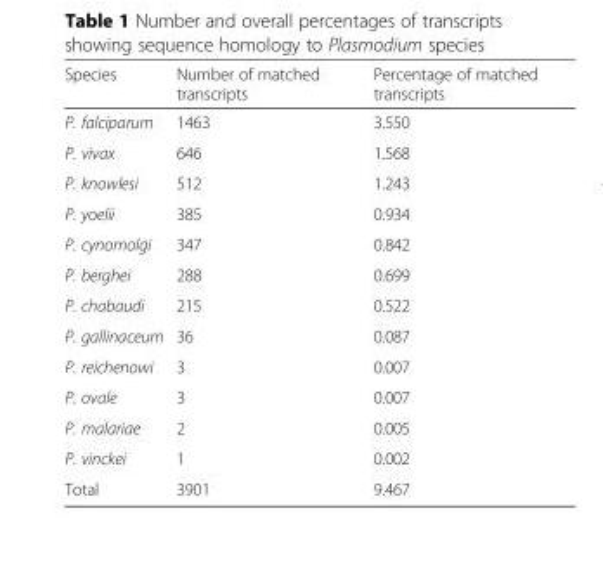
<table><thead><tr><td>Species</td><td>Number of matched transcripts</td><td>Percentage of matched transcripts</td></tr></thead><tbody><tr><td>P. falciparum</td><td>1463</td><td>3.550</td></tr><tr><td>P. vivax</td><td>646</td><td>1.568</td></tr><tr><td>P. knowlesi</td><td>512</td><td>1.243</td></tr><tr><td>P. yoelii</td><td>385</td><td>0.934</td></tr><tr><td>P. cynomolgi</td><td>347</td><td>0.842</td></tr><tr><td>P. berghei</td><td>288</td><td>0.699</td></tr><tr><td>P. chabaudi</td><td>215</td><td>0.522</td></tr><tr><td>P. gallinaceum</td><td>36</td><td>0.087</td></tr><tr><td>P. reichenowi</td><td>3</td><td>0.007</td></tr><tr><td>P. ovale</td><td>3</td><td>0.007</td></tr><tr><td>P. malariae</td><td>2</td><td>0.005</td></tr><tr><td>P. vinckei</td><td>1</td><td>0.002</td></tr><tr><td>Total</td><td>3901</td><td>9.467</td></tr></tbody></table>